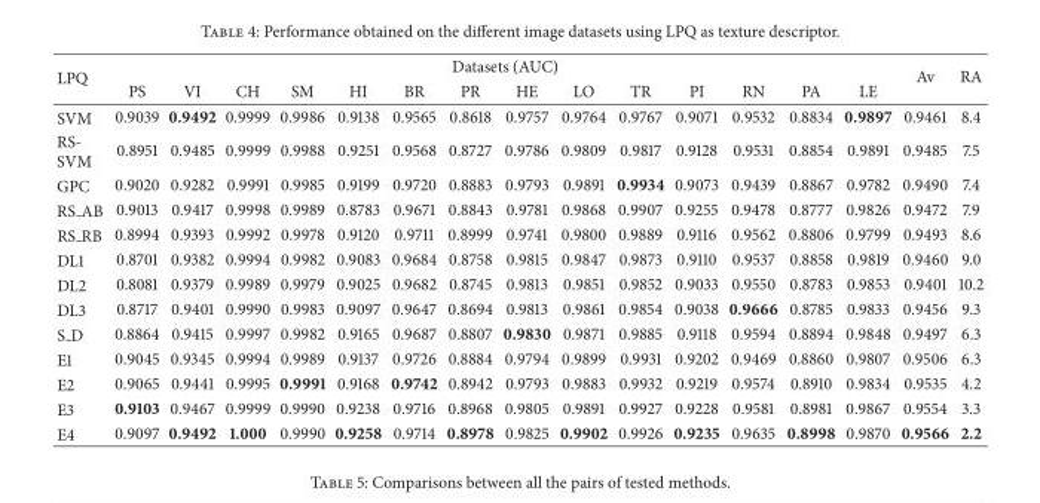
<table><thead><tr><td rowspan="2">LPQ</td><td colspan="14">Datasets (AUC)</td><td rowspan="2">Av</td><td rowspan="2">RA</td></tr><tr><td>PS</td><td>VI</td><td>CH</td><td>SM</td><td>HI</td><td>BR</td><td>PR</td><td>HE</td><td>LO</td><td>TR</td><td>PI</td><td>RN</td><td>PA</td><td>LE</td></tr></thead><tbody><tr><td>SVM</td><td>0.9039</td><td>0.9492</td><td>0.9999</td><td>0.9986</td><td>0.9138</td><td>0.9565</td><td>0.8618</td><td>0.9757</td><td>0.9764</td><td>0.9767</td><td>0.9071</td><td>0.9532</td><td>0.8834</td><td>0.9897</td><td>0.9461</td><td>8.4</td></tr><tr><td>RS- SVM</td><td>0.8951</td><td>0.9485</td><td>0.9999</td><td>0.9988</td><td>0.9251</td><td>0.9568</td><td>0.8727</td><td>0.9786</td><td>0.9809</td><td>0.9817</td><td>0.9128</td><td>0.9531</td><td>0.8854</td><td>0.9891</td><td>0.9485</td><td>7.5</td></tr><tr><td>GPC</td><td>0.9020</td><td>0.9282</td><td>0.9991</td><td>0.9985</td><td>0.9199</td><td>0.9720</td><td>0.8883</td><td>0.9793</td><td>0.9891</td><td>0.9934</td><td>0.9073</td><td>0.9439</td><td>0.8867</td><td>0.9782</td><td>0.9490</td><td>7.4</td></tr><tr><td>RS AB</td><td>0.9013</td><td>0.9417</td><td>0.9998</td><td>0.9989</td><td>0.8783</td><td>0.9671</td><td>0.8843</td><td>0.9781</td><td>0.9868</td><td>0.9907</td><td>0.9255</td><td>0.9478</td><td>0.8777</td><td>0.9826</td><td>0.9472</td><td>7.9</td></tr><tr><td>RS RB</td><td>0.8994</td><td>0.9393</td><td>0.9992</td><td>0.9978</td><td>0.9120</td><td>0.9711</td><td>0.8999</td><td>0.9741</td><td>0.9800</td><td>0.9889</td><td>0.9116</td><td>0.9562</td><td>0.8806</td><td>0.9799</td><td>0.9493</td><td>8.6</td></tr><tr><td>DL1</td><td>0.8701</td><td>0.9382</td><td>0.9994</td><td>0.9982</td><td>0.9083</td><td>0.9684</td><td>0.8758</td><td>0.9815</td><td>0.9847</td><td>0.9873</td><td>0.9110</td><td>0.9537</td><td>0.8858</td><td>0.9819</td><td>0.9460</td><td>9.0</td></tr><tr><td>DL2</td><td>0.8081</td><td>0.9379</td><td>0.9989</td><td>0.9979</td><td>0.9025</td><td>0.9682</td><td>0.8745</td><td>0.9813</td><td>0.9851</td><td>0.9852</td><td>0.9033</td><td>0.9550</td><td>0.8783</td><td>0.9853</td><td>0.9401</td><td>10.2</td></tr><tr><td>DL3</td><td>0.8717</td><td>0.9401</td><td>0.9990</td><td>0.9983</td><td>0.9097</td><td>0.9647</td><td>0.8694</td><td>0.9813</td><td>0.9861</td><td>0.9854</td><td>0.9038</td><td>0.9666</td><td>0.8785</td><td>0.9833</td><td>0.9456</td><td>9.3</td></tr><tr><td>S D</td><td>0.8864</td><td>0.9415</td><td>0.9997</td><td>0.9982</td><td>0.9165</td><td>0.9687</td><td>0.8807</td><td>0.9830</td><td>0.9871</td><td>0.9885</td><td>0.9118</td><td>0.9594</td><td>0.8894</td><td>0.9848</td><td>0.9497</td><td>6.3</td></tr><tr><td>E1</td><td>0.9045</td><td>0.9345</td><td>0.9994</td><td>0.9989</td><td>0.9137</td><td>0.9726</td><td>0.8884</td><td>0.9794</td><td>0.9899</td><td>0.9931</td><td>0.9202</td><td>0.9469</td><td>0.8860</td><td>0.9807</td><td>0.9506</td><td>6.3</td></tr><tr><td>E2</td><td>0.9065</td><td>0.9441</td><td>0.9995</td><td>0.9991</td><td>0.9168</td><td>0.9742</td><td>0.8942</td><td>0.9793</td><td>0.9883</td><td>0.9932</td><td>0.9219</td><td>0.9574</td><td>0.8910</td><td>0.9834</td><td>0.9535</td><td>4.2</td></tr><tr><td>E3</td><td>0.9103</td><td>0.9467</td><td>0.9999</td><td>0.9990</td><td>0.9238</td><td>0.9716</td><td>0.8968</td><td>0.9805</td><td>0.9891</td><td>0.9927</td><td>0.9228</td><td>0.9581</td><td>0.8981</td><td>0.9867</td><td>0.9554</td><td>3.3</td></tr><tr><td>E4</td><td>0.9097</td><td>0.9492</td><td>1.000</td><td>0.9990</td><td>0.9258</td><td>0.9714</td><td>0.8978</td><td>0.9825</td><td>0.9902</td><td>0.9926</td><td>0.9235</td><td>0.9635</td><td>0.8998</td><td>0.9870</td><td>0.9566</td><td>2.2</td></tr></tbody></table>